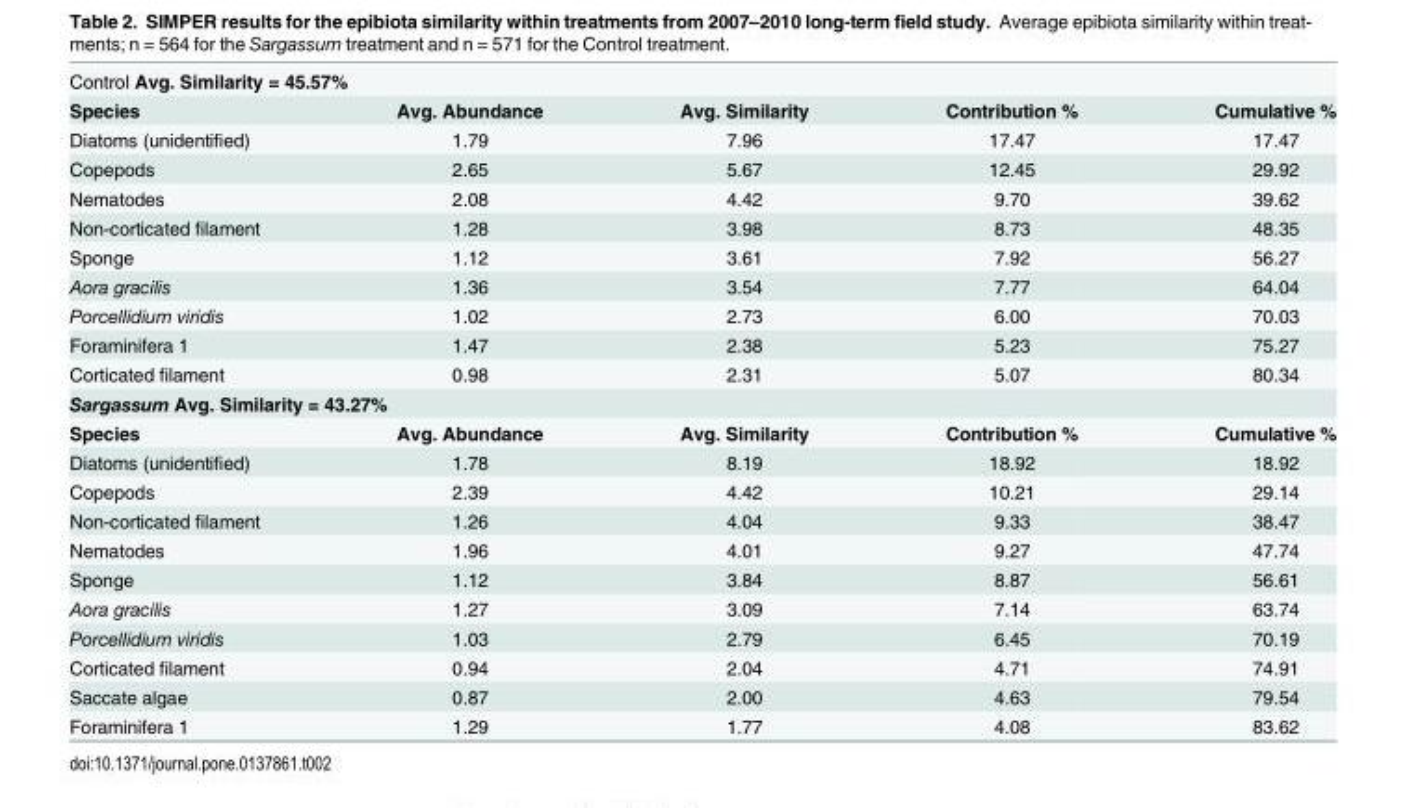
<table><tbody><tr><td colspan="5">Control Avg. Similarity = 45.57%</td></tr><tr><td>Species</td><td>Avg. Abundance</td><td>Avg. Similarity</td><td>Contribution %</td><td>Cumulative %</td></tr><tr><td>Diatoms (unidentified)</td><td>1.79</td><td>7.96</td><td>17.47</td><td>17.47</td></tr><tr><td>Copepods</td><td>2.65</td><td>5.67</td><td>12.45</td><td>29.92</td></tr><tr><td>Nematodes</td><td>2.08</td><td>4.42</td><td>9.70</td><td>39.62</td></tr><tr><td>Non-corticated filament</td><td>1.28</td><td>3.98</td><td>8.73</td><td>48.35</td></tr><tr><td>Sponge</td><td>1.12</td><td>3.61</td><td>7.92</td><td>56.27</td></tr><tr><td>Aora gracilis</td><td>1.36</td><td>3.54</td><td>7.77</td><td>64.04</td></tr><tr><td>Porcellidium viridis</td><td>1.02</td><td>2.73</td><td>6.00</td><td>70.03</td></tr><tr><td>Foraminifera 1</td><td>1.47</td><td>2.38</td><td>5.23</td><td>75.27</td></tr><tr><td>Corticated filament</td><td>0.98</td><td>2.31</td><td>5.07</td><td>80.34</td></tr><tr><td colspan="5">Sargassum Avg. Similarity = 43.27%</td></tr><tr><td>Species</td><td>Avg. Abundance</td><td>Avg. Similarity</td><td>Contribution %</td><td>Cumulative %</td></tr><tr><td>Diatoms (unidentified)</td><td>1.78</td><td>8.19</td><td>18.92</td><td>18.92</td></tr><tr><td>Copepods</td><td>2.39</td><td>4.42</td><td>10.21</td><td>29.14</td></tr><tr><td>Non-corticated filament</td><td>1.26</td><td>4.04</td><td>9.33</td><td>38.47</td></tr><tr><td>Nematodes</td><td>1.96</td><td>4.01</td><td>9.27</td><td>47.74</td></tr><tr><td>Sponge</td><td>1.12</td><td>3.84</td><td>8.87</td><td>56.61</td></tr><tr><td>Aora gracilis</td><td>1.27</td><td>3.09</td><td>7.14</td><td>63.74</td></tr><tr><td>Porcellidium viridis</td><td>1.03</td><td>2.79</td><td>6.45</td><td>70.19</td></tr><tr><td>Corticated filament</td><td>0.94</td><td>2.04</td><td>4.71</td><td>74.91</td></tr><tr><td>Saccate algae</td><td>0.87</td><td>2.00</td><td>4.63</td><td>79.54</td></tr><tr><td>Foraminifera 1</td><td>1.29</td><td>1.77</td><td>4.08</td><td>83.62</td></tr></tbody></table>